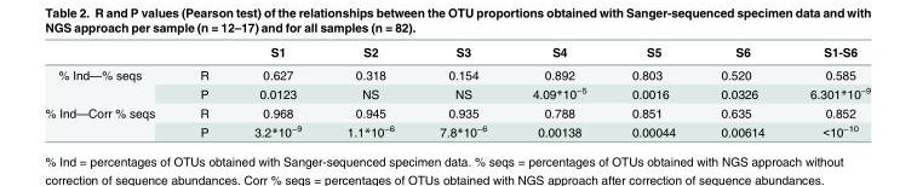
<table><thead><tr><td></td><td></td><td>S1</td><td>S2</td><td>S3</td><td>S4</td><td>S5</td><td>S6</td><td>S1-S6</td></tr></thead><tbody><tr><td rowspan="2">% Ind—% seqs</td><td>R</td><td>0.627</td><td>0.318</td><td>0.154</td><td>0.892</td><td>0.803</td><td>0.520</td><td>0.585</td></tr><tr><td>P</td><td>0.0123</td><td>NS</td><td>NS</td><td>4.09*10<sup>−5</sup></td><td>0.0016</td><td>0.0326</td><td>6.301*10<sup>−9</sup></td></tr><tr><td rowspan="2">% Ind—Corr % seqs</td><td>R</td><td>0.968</td><td>0.945</td><td>0.935</td><td>0.788</td><td>0.851</td><td>0.635</td><td>0.852</td></tr><tr><td>P</td><td>3.2*10<sup>−9</sup></td><td>1.1*10<sup>−6</sup></td><td>7.8*10<sup>−6</sup></td><td>0.00138</td><td>0.00044</td><td>0.00614</td><td>&lt;10<sup>−10</sup></td></tr></tbody></table>